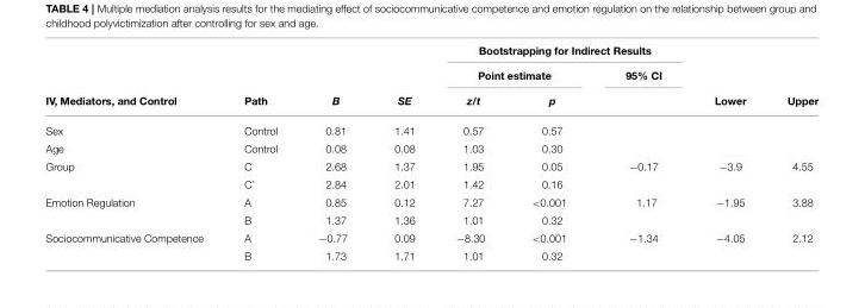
<table><thead><tr><td rowspan="3">IV, Mediators, and Control</td><td rowspan="3">Path</td><td rowspan="3">B</td><td rowspan="3">SE</td><td colspan="3">Bootstrapping for Indirect Results</td><td rowspan="3">Lower</td><td rowspan="3">Upper</td></tr><tr><td colspan="2">Point estimate</td><td rowspan="2">95% CI</td></tr><tr><td>z/t</td><td>p</td></tr></thead><tbody><tr><td>Sex</td><td>Control</td><td>0.81</td><td>1.41</td><td>0.57</td><td>0.57</td><td></td><td></td><td></td></tr><tr><td>Age</td><td>Control</td><td>0.08</td><td>0.08</td><td>1.03</td><td>0.30</td><td></td><td></td><td></td></tr><tr><td rowspan="2">Group</td><td>C</td><td>2.68</td><td>1.37</td><td>1.95</td><td>0.05</td><td>−0.17</td><td>−3.9</td><td>4.55</td></tr><tr><td>C’</td><td>2.84</td><td>2.01</td><td>1.42</td><td>0.16</td><td></td><td></td><td></td></tr><tr><td rowspan="2">Emotion Regulation</td><td>A</td><td>0.85</td><td>0.12</td><td>7.27</td><td>&lt;0.001</td><td>1.17</td><td>−1.95</td><td>3.88</td></tr><tr><td>B</td><td>1.37</td><td>1.36</td><td>1.01</td><td>0.32</td><td></td><td></td><td></td></tr><tr><td rowspan="2">Sociocommunicative Competence</td><td>A</td><td>−0.77</td><td>0.09</td><td>−8.30</td><td>&lt;0.001</td><td>−1.34</td><td>−4.05</td><td>2.12</td></tr><tr><td>B</td><td>1.73</td><td>1.71</td><td>1.01</td><td>0.32</td><td></td><td></td><td></td></tr></tbody></table>